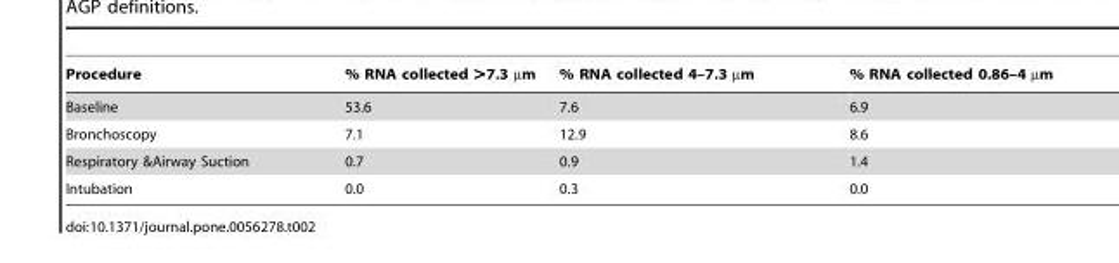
<table><thead><tr><td>Procedure</td><td>% RNA collected &gt;7.3 µm</td><td>% RNA collected 4–7.3 µm</td><td>% RNA collected 0.86–4 µm</td></tr></thead><tbody><tr><td>Baseline</td><td>53.6</td><td>7.6</td><td>6.9</td></tr><tr><td>Bronchoscopy</td><td>7.1</td><td>12.9</td><td>8.6</td></tr><tr><td>Respiratory &amp;Airway Suction</td><td>0.7</td><td>0.9</td><td>1.4</td></tr><tr><td>Intubation</td><td>0.0</td><td>0.3</td><td>0.0</td></tr></tbody></table>